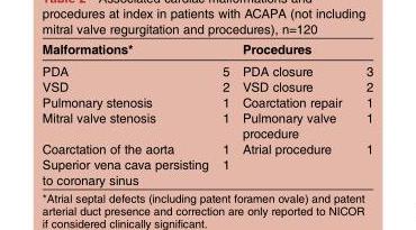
<table><thead><tr><td colspan="2">Malformations*</td><td colspan="2">Procedures</td></tr><tr><td>PDA</td><td>5</td><td>PDA closure</td><td>3</td></tr></thead><tbody><tr><td>VSD</td><td>2</td><td>VSD closure</td><td>2</td></tr><tr><td>Pulmonary stenosis</td><td>1</td><td>Coarctation repair</td><td>1</td></tr><tr><td>Mitral valve stenosis</td><td>1</td><td>Pulmonary valve procedure</td><td>1</td></tr><tr><td>Coarctation of the aorta</td><td>1</td><td>Atrial procedure</td><td>1</td></tr><tr><td>Superior vena cava persisting to coronary sinus</td><td>1</td><td colspan="2"></td></tr></tbody></table>